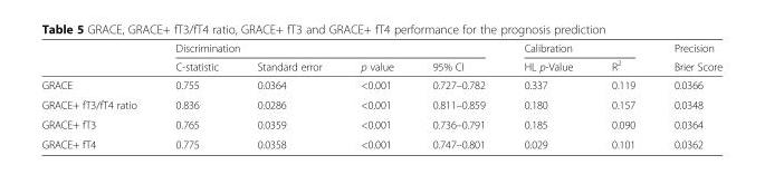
<table><thead><tr><td rowspan="2"></td><td colspan="4">Discrimination</td><td colspan="2">Calibration</td><td rowspan="2">Precision Brier Score</td></tr><tr><td>C-statistic</td><td>Standard error</td><td>p value</td><td>95% CI</td><td>HL p-Value</td><td>R<sup>2</sup></td></tr></thead><tbody><tr><td>GRACE</td><td>0.755</td><td>0.0364</td><td>&lt;0.001</td><td>0.727–0.782</td><td>0.337</td><td>0.119</td><td>0.0366</td></tr><tr><td>GRACE+ fT3/fT4 ratio</td><td>0.836</td><td>0.0286</td><td>&lt;0.001</td><td>0.811–0.859</td><td>0.180</td><td>0.157</td><td>0.0348</td></tr><tr><td>GRACE+ fT3</td><td>0.765</td><td>0.0359</td><td>&lt;0.001</td><td>0.736–0.791</td><td>0.185</td><td>0.090</td><td>0.0364</td></tr><tr><td>GRACE+ fT4</td><td>0.775</td><td>0.0358</td><td>&lt;0.001</td><td>0.747–0.801</td><td>0.029</td><td>0.101</td><td>0.0362</td></tr></tbody></table>